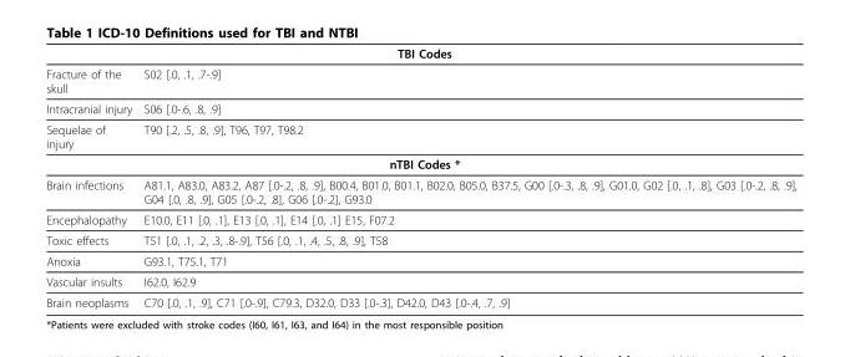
<table><thead><tr><td colspan="2">TBI Codes</td></tr><tr><td>Fracture of the skull</td><td>S02 [.0, .1, .7-.9]</td></tr></thead><tbody><tr><td>Intracranial injury</td><td>S06 [.0-.6, .8, .9]</td></tr><tr><td>Sequelae of injury</td><td>T90 [.2, .5, .8, .9], T96, T97, T98.2</td></tr><tr><td colspan="2">nTBI Codes *</td></tr><tr><td>Brain infections</td><td>A81.1, A83.0, A83.2, A87 [.0-.2, .8, .9], B00.4, B01.0, B01.1, B02.0, B05.0, B37.5, G00 [.0-.3, .8, .9], G01.0, G02 [.0, .1, .8], G03 [.0-.2, .8, .9], G04 [.0, .8, .9], G05 [.0-.2, .8], G06 [.0-.2], G93.0</td></tr><tr><td>Encephalopathy</td><td>E10.0, E11 [.0, .1], E13 [.0, .1], E14 [.0, .1] E15, F07.2</td></tr><tr><td>Toxic effects</td><td>T51 [.0, .1, .2, .3, .8-.9], T56 [.0, .1, .4, .5, .8, .9], T58</td></tr><tr><td>Anoxia</td><td>G93.1, T75.1, T71</td></tr><tr><td>Vascular insults</td><td>I62.0, I62.9</td></tr><tr><td>Brain neoplasms</td><td>C70 [.0, .1, .9], C71 [.0-.9], C79.3, D32.0, D33 [.0-.3], D42.0, D43 [.0-.4, .7, .9]</td></tr></tbody></table>